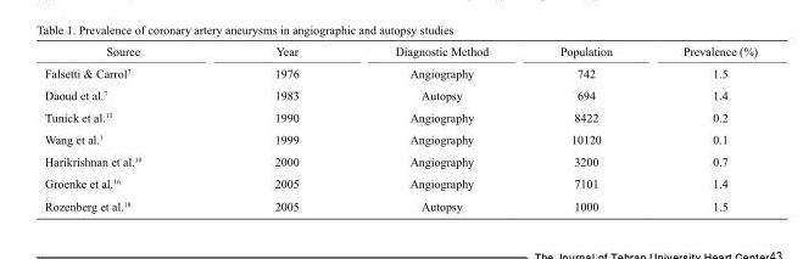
<table><thead><tr><td>Source</td><td>Year</td><td>Diagnostic Method</td><td>Population</td><td>Prevalence (%)</td></tr></thead><tbody><tr><td>Falsetti &amp; Carrol<sup>7</sup></td><td>1976</td><td>Angiography</td><td>742</td><td>1.5</td></tr><tr><td>Daoud et al.<sup>7</sup></td><td>1983</td><td>Autopsy</td><td>694</td><td>1.4</td></tr><tr><td>Tunick et al.<sup>13</sup></td><td>1990</td><td>Angiography</td><td>8422</td><td>0.2</td></tr><tr><td>Wang et al.<sup>1</sup></td><td>1999</td><td>Angiography</td><td>10120</td><td>0.1</td></tr><tr><td>Harikrishnan et al.<sup>10</sup></td><td>2000</td><td>Angiography</td><td>3200</td><td>0.7</td></tr><tr><td>Groenke et al.<sup>16</sup></td><td>2005</td><td>Angiography</td><td>7101</td><td>1.4</td></tr><tr><td>Rozenberg et al.<sup>18</sup></td><td>2005</td><td>Autopsy</td><td>1000</td><td>1.5</td></tr></tbody></table>